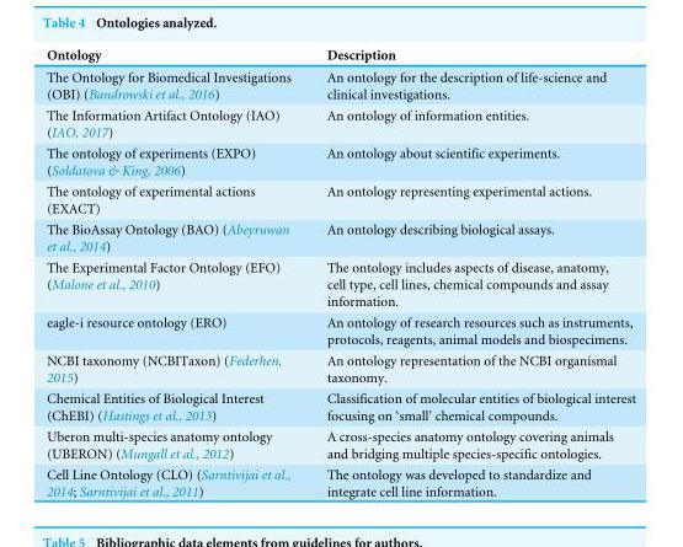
<table><thead><tr><td>Ontology</td><td>Description</td></tr></thead><tbody><tr><td>The Ontology for Biomedical Investigations (OBI) (Bandrowski et al., 2016)</td><td>An ontology for the description of life-science and clinical investigations.</td></tr><tr><td>The Information Artifact Ontology (IAO) (IAO, 2017)</td><td>An ontology of information entities.</td></tr><tr><td>The ontology of experiments (EXPO) (Soldatova &amp; King, 2006)</td><td>An ontology about scientific experiments.</td></tr><tr><td>The ontology of experimental actions (EXACT)</td><td>An ontology representing experimental actions.</td></tr><tr><td>The BioAssay Ontology (BAO) (Abeyruwan et al., 2014)</td><td>An ontology describing biological assays.</td></tr><tr><td>The Experimental Factor Ontology (EFO) (Malone et al., 2010)</td><td>The ontology includes aspects of disease, anatomy, cell type, cell lines, chemical compounds and assay information.</td></tr><tr><td>eagle-i resource ontology (ERO)</td><td>An ontology of research resources such as instruments, protocols, reagents, animal models and biospecimens.</td></tr><tr><td>NCBI taxonomy (NCBITaxon) (Federhen, 2015)</td><td>An ontology representation of the NCBI organismal taxonomy.</td></tr><tr><td>Chemical Entities of Biological Interest (ChEBI) (Hastings et al., 2013)</td><td>Classification of molecular entities of biological interest focusing on ‘small’ chemical compounds.</td></tr><tr><td>Uberon multi-species anatomy ontology (UBERON) (Mungall et al., 2012)</td><td>A cross-species anatomy ontology covering animals and bridging multiple species-specific ontologies.</td></tr><tr><td>Cell Line Ontology (CLO) (Sarntivijai et al., 2014; Sarntivijai et al., 2011)</td><td>The ontology was developed to standardize and integrate cell line information.</td></tr></tbody></table>